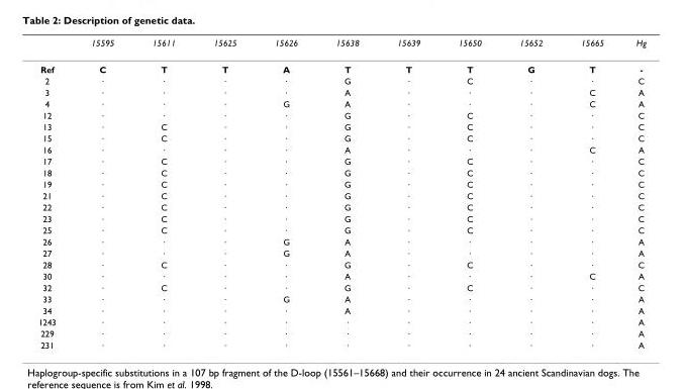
<table><thead><tr><td></td><td>15595</td><td>15611</td><td>15625</td><td>15626</td><td>15638</td><td>15639</td><td>15650</td><td>15652</td><td>15665</td><td>Hg</td></tr></thead><tbody><tr><td>Ref</td><td>C</td><td>T</td><td>T</td><td>A</td><td>T</td><td>T</td><td>T</td><td>G</td><td>T</td><td>-</td></tr><tr><td>2</td><td>·</td><td>·</td><td>·</td><td>·</td><td>G</td><td>·</td><td>C</td><td>·</td><td>·</td><td>C</td></tr><tr><td>3</td><td>·</td><td>·</td><td>·</td><td>·</td><td>A</td><td>·</td><td>·</td><td>·</td><td>C</td><td>A</td></tr><tr><td>4</td><td>·</td><td>·</td><td>·</td><td>G</td><td>A</td><td>·</td><td>·</td><td>·</td><td>C</td><td>A</td></tr><tr><td>12</td><td>·</td><td>·</td><td>·</td><td>·</td><td>G</td><td>·</td><td>C</td><td>·</td><td>·</td><td>C</td></tr><tr><td>13</td><td>·</td><td>C</td><td>·</td><td>·</td><td>G</td><td>·</td><td>C</td><td>·</td><td>·</td><td>C</td></tr><tr><td>15</td><td>·</td><td>C</td><td>·</td><td>·</td><td>G</td><td>·</td><td>C</td><td>·</td><td>·</td><td>C</td></tr><tr><td>16</td><td>·</td><td>·</td><td>·</td><td>·</td><td>A</td><td>·</td><td>·</td><td>·</td><td>C</td><td>A</td></tr><tr><td>17</td><td>·</td><td>C</td><td>·</td><td>·</td><td>G</td><td>·</td><td>C</td><td>·</td><td>·</td><td>C</td></tr><tr><td>18</td><td>·</td><td>C</td><td>·</td><td>·</td><td>G</td><td>·</td><td>C</td><td>·</td><td>·</td><td>C</td></tr><tr><td>19</td><td>·</td><td>C</td><td>·</td><td>·</td><td>G</td><td>·</td><td>C</td><td>·</td><td>·</td><td>C</td></tr><tr><td>21</td><td>·</td><td>C</td><td>·</td><td>·</td><td>G</td><td>·</td><td>C</td><td>·</td><td>·</td><td>C</td></tr><tr><td>22</td><td>·</td><td>C</td><td>·</td><td>·</td><td>G</td><td>·</td><td>C</td><td>·</td><td>·</td><td>C</td></tr><tr><td>23</td><td>·</td><td>C</td><td>·</td><td>·</td><td>G</td><td>·</td><td>C</td><td>·</td><td>·</td><td>C</td></tr><tr><td>25</td><td>·</td><td>C</td><td>·</td><td>·</td><td>G</td><td>·</td><td>C</td><td>·</td><td>·</td><td>C</td></tr><tr><td>26</td><td>·</td><td>·</td><td>·</td><td>G</td><td>A</td><td>·</td><td>·</td><td>·</td><td>·</td><td>A</td></tr><tr><td>27</td><td>·</td><td>·</td><td>·</td><td>G</td><td>A</td><td>·</td><td>·</td><td>·</td><td>·</td><td>A</td></tr><tr><td>28</td><td>·</td><td>C</td><td>·</td><td>·</td><td>G</td><td>·</td><td>C</td><td>·</td><td>·</td><td>C</td></tr><tr><td>30</td><td>·</td><td>·</td><td>·</td><td>·</td><td>A</td><td>·</td><td>·</td><td>·</td><td>C</td><td>A</td></tr><tr><td>32</td><td>·</td><td>C</td><td>·</td><td>·</td><td>G</td><td>·</td><td>C</td><td>·</td><td>·</td><td>C</td></tr><tr><td>33</td><td>·</td><td>·</td><td>·</td><td>G</td><td>A</td><td>·</td><td>·</td><td>·</td><td>·</td><td>A</td></tr><tr><td>34</td><td>·</td><td>·</td><td>·</td><td>·</td><td>A</td><td>·</td><td>·</td><td>·</td><td>·</td><td>A</td></tr><tr><td>1243</td><td>·</td><td>·</td><td>·</td><td>·</td><td>·</td><td>·</td><td>·</td><td>·</td><td>·</td><td>A</td></tr><tr><td>229</td><td>·</td><td>·</td><td>·</td><td>·</td><td>·</td><td>·</td><td>·</td><td>·</td><td>·</td><td>A</td></tr><tr><td>231</td><td>·</td><td>·</td><td>·</td><td>·</td><td>·</td><td>·</td><td>·</td><td>·</td><td>·</td><td>A</td></tr></tbody></table>